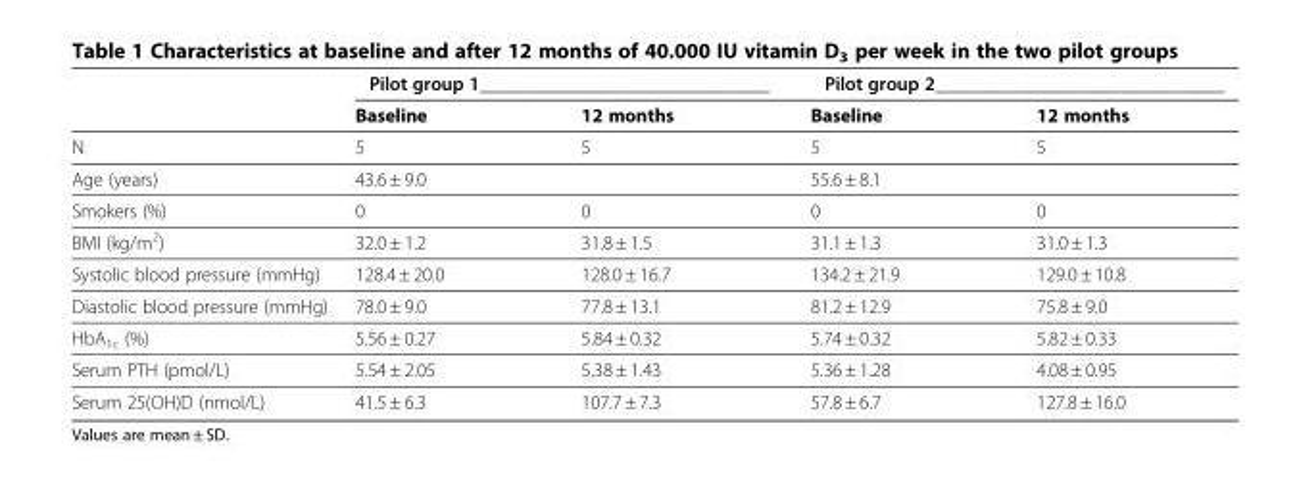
<table><thead><tr><td rowspan="2"></td><td colspan="2">Pilot group 1______________________________</td><td colspan="2">Pilot group 2______________________________</td></tr><tr><td>Baseline</td><td>12 months</td><td>Baseline</td><td>12 months</td></tr></thead><tbody><tr><td>N</td><td>5</td><td>5</td><td>5</td><td>5</td></tr><tr><td>Age (years)</td><td>43.6 ± 9.0</td><td></td><td>55.6 ± 8.1</td><td></td></tr><tr><td>Smokers (%)</td><td>0</td><td>0</td><td>0</td><td>0</td></tr><tr><td>BMI (kg/m<sup>2</sup>)</td><td>32.0 ± 1.2</td><td>31.8 ± 1.5</td><td>31.1 ± 1.3</td><td>31.0 ± 1.3</td></tr><tr><td>Systolic blood pressure (mmHg)</td><td>128.4 ± 20.0</td><td>128.0 ± 16.7</td><td>134.2 ± 21.9</td><td>129.0 ± 10.8</td></tr><tr><td>Diastolic blood pressure (mmHg)</td><td>78.0 ± 9.0</td><td>77.8 ± 13.1</td><td>81.2 ± 12.9</td><td>75.8 ± 9.0</td></tr><tr><td>HbA<sub>1c</sub> (%)</td><td>5.56 ± 0.27</td><td>5.84 ± 0.32</td><td>5.74 ± 0.32</td><td>5.82 ± 0.33</td></tr><tr><td>Serum PTH (pmol/L)</td><td>5.54 ± 2.05</td><td>5.38 ± 1.43</td><td>5.36 ± 1.28</td><td>4.08 ± 0.95</td></tr><tr><td>Serum 25(OH)D (nmol/L)</td><td>41.5 ± 6.3</td><td>107.7 ± 7.3</td><td>57.8 ± 6.7</td><td>127.8 ± 16.0</td></tr></tbody></table>